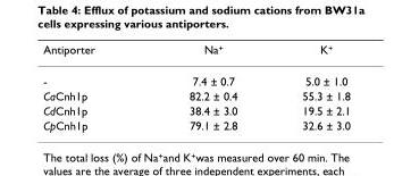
<table><thead><tr><td>Antiporter</td><td>Na<sup>+</sup></td><td>K<sup>+</sup></td></tr></thead><tbody><tr><td>-</td><td>7.4 ± 0.7</td><td>5.0 ± 1.0</td></tr><tr><td>CaCnh1p</td><td>82.2 ± 0.4</td><td>55.3 ± 1.8</td></tr><tr><td>CdCnh1p</td><td>38.4 ± 3.0</td><td>19.5 ± 2.1</td></tr><tr><td>CpCnh1p</td><td>79.1 ± 2.8</td><td>32.6 ± 3.0</td></tr></tbody></table>